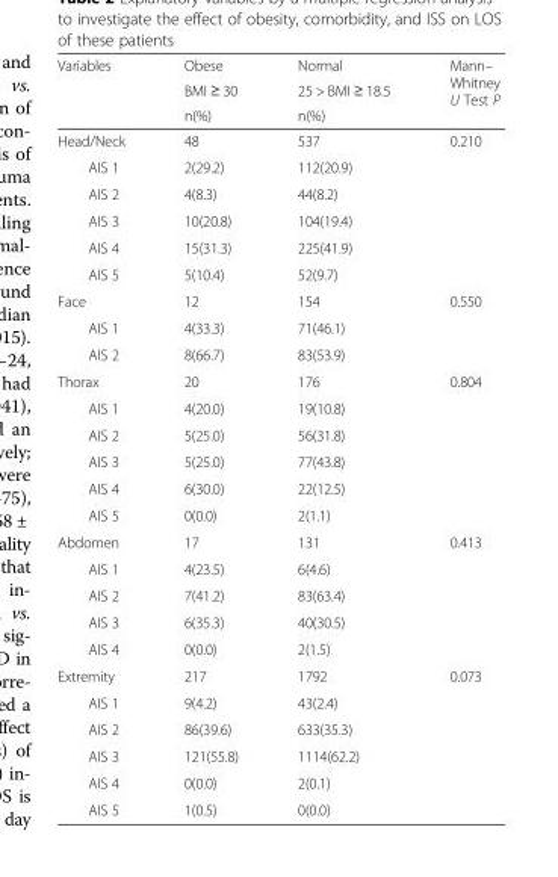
<table><thead><tr><td rowspan="3">Variables</td><td rowspan="3">Obese BMI ≥ 30 n(%)</td><td rowspan="3">Normal 25 &gt; BMI ≥ 18.5 n(%)</td><td rowspan="3">Mann– Whitney U Test P</td></tr><tr></tr><tr></tr></thead><tbody><tr><td>Head/Neck</td><td>48</td><td>537</td><td>0.210</td></tr><tr><td>AIS 1</td><td>2(29.2)</td><td>112(20.9)</td><td></td></tr><tr><td>AIS 2</td><td>4(8.3)</td><td>44(8.2)</td><td></td></tr><tr><td>AIS 3</td><td>10(20.8)</td><td>104(19.4)</td><td></td></tr><tr><td>AIS 4</td><td>15(31.3)</td><td>225(41.9)</td><td></td></tr><tr><td>AIS 5</td><td>5(10.4)</td><td>52(9.7)</td><td></td></tr><tr><td>Face</td><td>12</td><td>154</td><td>0.550</td></tr><tr><td>AIS 1</td><td>4(33.3)</td><td>71(46.1)</td><td></td></tr><tr><td>AIS 2</td><td>8(66.7)</td><td>83(53.9)</td><td></td></tr><tr><td>Thorax</td><td>20</td><td>176</td><td>0.804</td></tr><tr><td>AIS 1</td><td>4(20.0)</td><td>19(10.8)</td><td></td></tr><tr><td>AIS 2</td><td>5(25.0)</td><td>56(31.8)</td><td></td></tr><tr><td>AIS 3</td><td>5(25.0)</td><td>77(43.8)</td><td></td></tr><tr><td>AIS 4</td><td>6(30.0)</td><td>22(12.5)</td><td></td></tr><tr><td>AIS 5</td><td>0(0.0)</td><td>2(1.1)</td><td></td></tr><tr><td>Abdomen</td><td>17</td><td>131</td><td>0.413</td></tr><tr><td>AIS 1</td><td>4(23.5)</td><td>6(4.6)</td><td></td></tr><tr><td>AIS 2</td><td>7(41.2)</td><td>83(63.4)</td><td></td></tr><tr><td>AIS 3</td><td>6(35.3)</td><td>40(30.5)</td><td></td></tr><tr><td>AIS 4</td><td>0(0.0)</td><td>2(1.5)</td><td></td></tr><tr><td>Extremity</td><td>217</td><td>1792</td><td>0.073</td></tr><tr><td>AIS 1</td><td>9(4.2)</td><td>43(2.4)</td><td></td></tr><tr><td>AIS 2</td><td>86(39.6)</td><td>633(35.3)</td><td></td></tr><tr><td>AIS 3</td><td>121(55.8)</td><td>1114(62.2)</td><td></td></tr><tr><td>AIS 4</td><td>0(0.0)</td><td>2(0.1)</td><td></td></tr><tr><td>AIS 5</td><td>1(0.5)</td><td>0(0.0)</td><td></td></tr></tbody></table>